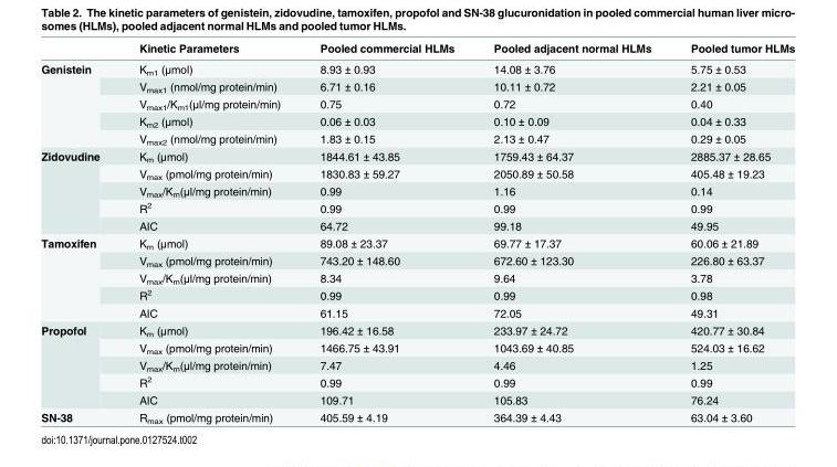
<table><thead><tr><td></td><td>Kinetic Parameters</td><td>Pooled commercial HLMs</td><td>Pooled adjacent normal HLMs</td><td>Pooled tumor HLMs</td></tr></thead><tbody><tr><td rowspan="5">Genistein</td><td>K<sub>m1</sub> (μmol)</td><td>8.93 ± 0.93</td><td>14.08 ± 3.76</td><td>5.75 ± 0.53</td></tr><tr><td>V<sub>max1</sub> (nmol/mg protein/min)</td><td>6.71 ± 0.16</td><td>10.11 ± 0.72</td><td>2.21 ± 0.05</td></tr><tr><td>V<sub>max1</sub>/K<sub>m1</sub>(μl/mg protein/min)</td><td>0.75</td><td>0.72</td><td>0.40</td></tr><tr><td>K<sub>m2</sub> (μmol)</td><td>0.06 ± 0.03</td><td>0.10 ± 0.09</td><td>0.04 ± 0.33</td></tr><tr><td>V<sub>max2</sub> (nmol/mg protein/min)</td><td>1.83 ± 0.15</td><td>2.13 ± 0.47</td><td>0.29 ± 0.05</td></tr><tr><td rowspan="5">Zidovudine</td><td>K<sub>m</sub> (μmol)</td><td>1844.61 ± 43.85</td><td>1759.43 ± 64.37</td><td>2885.37 ± 28.65</td></tr><tr><td>V<sub>max</sub> (pmol/mg protein/min)</td><td>1830.83 ± 59.27</td><td>2050.89 ± 50.58</td><td>405.48 ± 19.23</td></tr><tr><td>V<sub>max</sub>/K<sub>m</sub>(μl/mg protein/min)</td><td>0.99</td><td>1.16</td><td>0.14</td></tr><tr><td>R<sup>2</sup></td><td>0.99</td><td>0.99</td><td>0.99</td></tr><tr><td>AIC</td><td>64.72</td><td>99.18</td><td>49.95</td></tr><tr><td rowspan="5">Tamoxifen</td><td>K<sub>m</sub> (μmol)</td><td>89.08 ± 23.37</td><td>69.77 ± 17.37</td><td>60.06 ± 21.89</td></tr><tr><td>V<sub>max</sub> (pmol/mg protein/min)</td><td>743.20 ± 148.60</td><td>672.60 ± 123.30</td><td>226.80 ± 63.37</td></tr><tr><td>V<sub>max</sub>/K<sub>m</sub>(μl/mg protein/min)</td><td>8.34</td><td>9.64</td><td>3.78</td></tr><tr><td>R<sup>2</sup></td><td>0.99</td><td>0.99</td><td>0.98</td></tr><tr><td>AIC</td><td>61.15</td><td>72.05</td><td>49.31</td></tr><tr><td rowspan="5">Propofol</td><td>K<sub>m</sub> (μmol)</td><td>196.42 ± 16.58</td><td>233.97 ± 24.72</td><td>420.77 ± 30.84</td></tr><tr><td>V<sub>max</sub> (pmol/mg protein/min)</td><td>1466.75 ± 43.91</td><td>1043.69 ± 40.85</td><td>524.03 ± 16.62</td></tr><tr><td>V<sub>max</sub>/K<sub>m</sub>(μl/mg protein/min)</td><td>7.47</td><td>4.46</td><td>1.25</td></tr><tr><td>R<sup>2</sup></td><td>0.99</td><td>0.99</td><td>0.99</td></tr><tr><td>AIC</td><td>109.71</td><td>105.83</td><td>76.24</td></tr><tr><td>SN-38</td><td>R<sub>max</sub> (pmol/mg protein/min)</td><td>405.59 ± 4.19</td><td>364.39 ± 4.43</td><td>63.04 ± 3.60</td></tr></tbody></table>